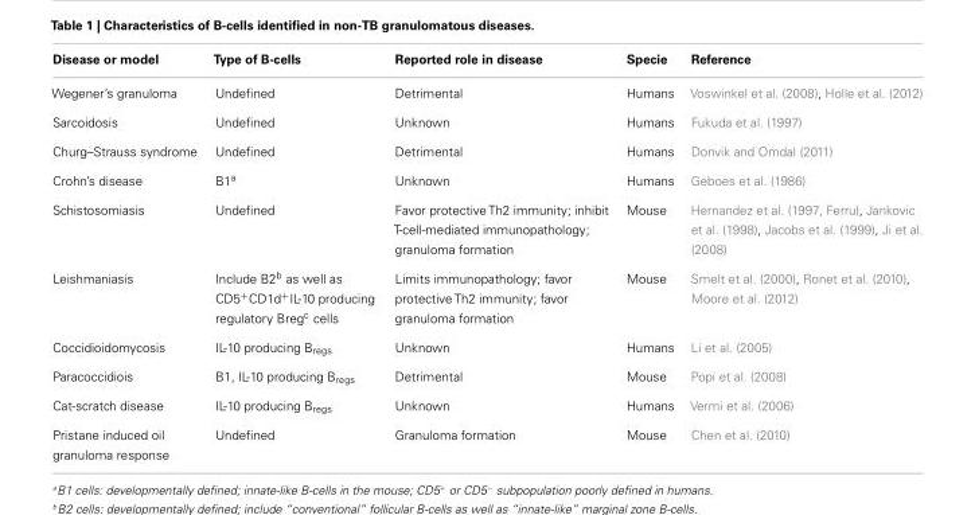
<table><thead><tr><td>Disease or model</td><td>Type of B-cells</td><td>Reported role in disease</td><td>Specie</td><td>Reference</td></tr></thead><tbody><tr><td>Wegener’s granuloma</td><td>Undefined</td><td>Detrimental</td><td>Humans</td><td>Voswinkel et al. (2008), Holle et al. (2012)</td></tr><tr><td>Sarcoidosis</td><td>Undefined</td><td>Unknown</td><td>Humans</td><td>Fukuda et al. (1997)</td></tr><tr><td>Churg–Strauss syndrome</td><td>Undefined</td><td>Detrimental</td><td>Humans</td><td>Donvik and Omdal (2011)</td></tr><tr><td>Crohn’s disease</td><td>B1<sup>a</sup></td><td>Unknown</td><td>Humans</td><td>Geboes et al. (1986)</td></tr><tr><td>Schistosomiasis</td><td>Undefined</td><td>Favor protective Th2 immunity; inhibit T-cell-mediated immunopathology; granuloma formation</td><td>Mouse</td><td>Hernandez et al. (1997, Ferru), Jankovic et al. (1998), Jacobs et al. (1999), Ji et al. (2008)</td></tr><tr><td>Leishmaniasis</td><td>Include B2<sup>b</sup> as well as CD5<sup>+</sup>CD1d<sup>+</sup>IL-10 producing regulatory Breg<sup>c</sup> cells</td><td>Limits immunopathology; favor protective Th2 immunity; favor granuloma formation</td><td>Mouse</td><td>Smelt et al. (2000), Ronet et al. (2010), Moore et al. (2012)</td></tr><tr><td>Coccidioidomycosis</td><td>IL-10 producing B<sub>regs</sub></td><td>Unknown</td><td>Humans</td><td>Li et al. (2005)</td></tr><tr><td>Paracoccidiois</td><td>B1, IL-10 producing B<sub>regs</sub></td><td>Detrimental</td><td>Mouse</td><td>Popi et al. (2008)</td></tr><tr><td>Cat-scratch disease</td><td>IL-10 producing B<sub>regs</sub></td><td>Unknown</td><td>Humans</td><td>Vermi et al. (2006)</td></tr><tr><td>Pristane induced oil granuloma response</td><td>Undefined</td><td>Granuloma formation</td><td>Mouse</td><td>Chen et al. (2010)</td></tr></tbody></table>